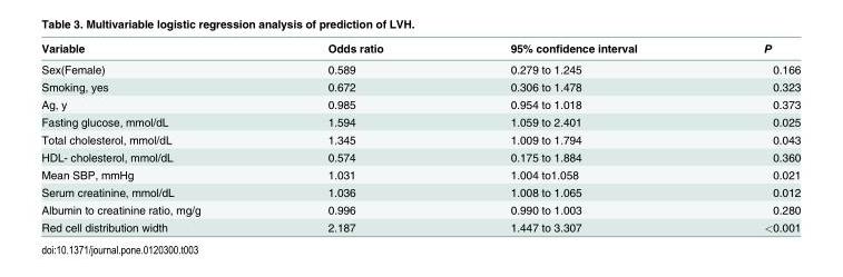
<table><thead><tr><td>Variable</td><td>Odds ratio</td><td>95% confidence interval</td><td>P</td></tr></thead><tbody><tr><td>Sex(Female)</td><td>0.589</td><td>0.279 to 1.245</td><td>0.166</td></tr><tr><td>Smoking, yes</td><td>0.672</td><td>0.306 to 1.478</td><td>0.323</td></tr><tr><td>Ag, y</td><td>0.985</td><td>0.954 to 1.018</td><td>0.373</td></tr><tr><td>Fasting glucose, mmol/dL</td><td>1.594</td><td>1.059 to 2.401</td><td>0.025</td></tr><tr><td>Total cholesterol, mmol/dL</td><td>1.345</td><td>1.009 to 1.794</td><td>0.043</td></tr><tr><td>HDL- cholesterol, mmol/dL</td><td>0.574</td><td>0.175 to 1.884</td><td>0.360</td></tr><tr><td>Mean SBP, mmHg</td><td>1.031</td><td>1.004 to1.058</td><td>0.021</td></tr><tr><td>Serum creatinine, mmol/dL</td><td>1.036</td><td>1.008 to 1.065</td><td>0.012</td></tr><tr><td>Albumin to creatinine ratio, mg/g</td><td>0.996</td><td>0.990 to 1.003</td><td>0.280</td></tr><tr><td>Red cell distribution width</td><td>2.187</td><td>1.447 to 3.307</td><td>&lt;0.001</td></tr></tbody></table>